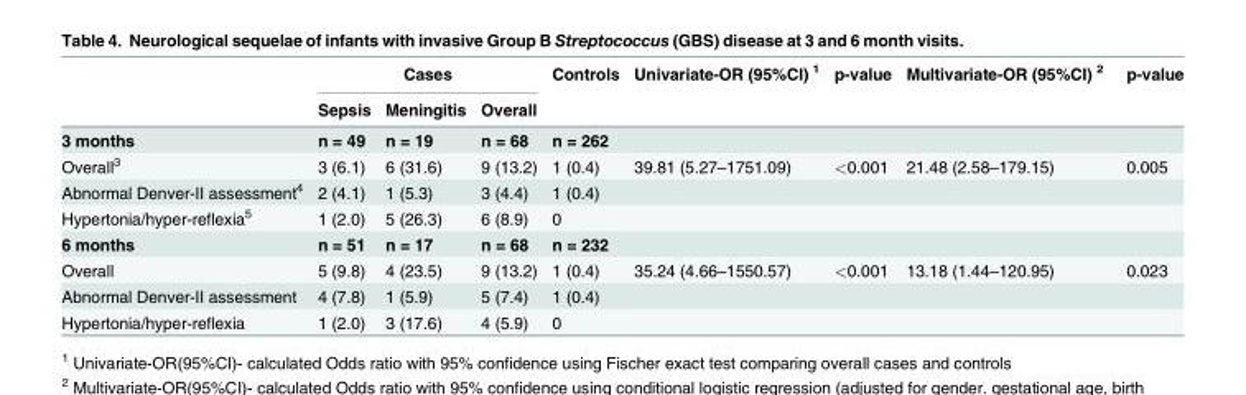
<table><thead><tr><td rowspan="2"></td><td colspan="3">Cases</td><td rowspan="2">Controls</td><td rowspan="2">Univariate-OR (95%CI) <sup>1</sup></td><td rowspan="2">p-value</td><td rowspan="2">Multivariate-OR (95%CI) <sup>2</sup></td><td rowspan="2">p-value</td></tr><tr><td>Sepsis</td><td>Meningitis</td><td>Overall</td></tr></thead><tbody><tr><td>3 months</td><td>n = 49</td><td>n = 19</td><td>n = 68</td><td>n = 262</td><td></td><td></td><td></td><td></td></tr><tr><td>Overall<sup>3</sup></td><td>3 (6.1)</td><td>6 (31.6)</td><td>9 (13.2)</td><td>1 (0.4)</td><td>39.81 (5.27–1751.09)</td><td>&lt;0.001</td><td>21.48 (2.58–179.15)</td><td>0.005</td></tr><tr><td>Abnormal Denver-II assessment<sup>4</sup></td><td>2 (4.1)</td><td>1 (5.3)</td><td>3 (4.4)</td><td>1 (0.4)</td><td></td><td></td><td></td><td></td></tr><tr><td>Hypertonia/hyper-reflexia<sup>5</sup></td><td>1 (2.0)</td><td>5 (26.3)</td><td>6 (8.9)</td><td>0</td><td></td><td></td><td></td><td></td></tr><tr><td>6 months</td><td>n = 51</td><td>n = 17</td><td>n = 68</td><td>n = 232</td><td></td><td></td><td></td><td></td></tr><tr><td>Overall</td><td>5 (9.8)</td><td>4 (23.5)</td><td>9 (13.2)</td><td>1 (0.4)</td><td>35.24 (4.66–1550.57)</td><td>&lt;0.001</td><td>13.18 (1.44–120.95)</td><td>0.023</td></tr><tr><td>Abnormal Denver-II assessment</td><td>4 (7.8)</td><td>1 (5.9)</td><td>5 (7.4)</td><td>1 (0.4)</td><td></td><td></td><td></td><td></td></tr><tr><td>Hypertonia/hyper-reflexia</td><td>1 (2.0)</td><td>3 (17.6)</td><td>4 (5.9)</td><td>0</td><td></td><td></td><td></td><td></td></tr></tbody></table>